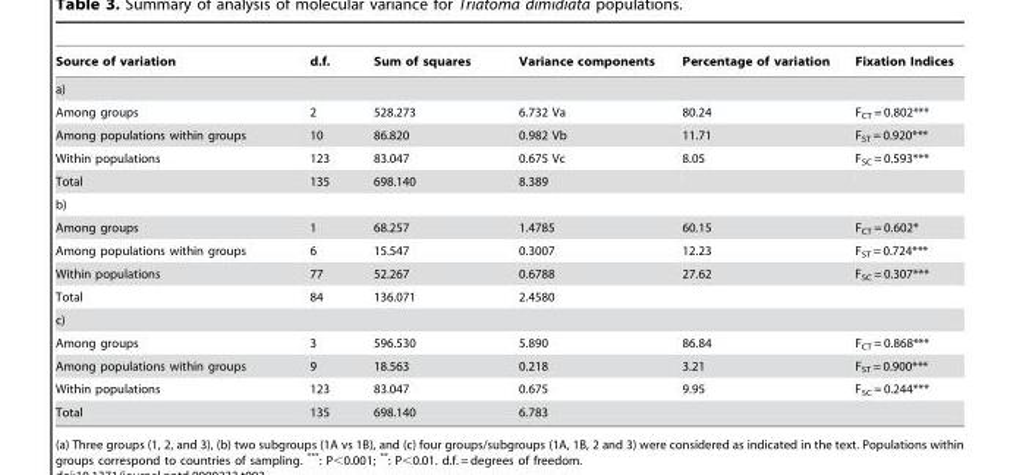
<table><thead><tr><td>Source of variation</td><td>d.f.</td><td>Sum of squares</td><td>Variance components</td><td>Percentage of variation</td><td>Fixation Indices</td></tr></thead><tbody><tr><td colspan="6">a)</td></tr><tr><td>Among groups</td><td>2</td><td>528.273</td><td>6.732 Va</td><td>80.24</td><td>F<sub>CT</sub> = 0.802***</td></tr><tr><td>Among populations within groups</td><td>10</td><td>86.820</td><td>0.982 Vb</td><td>11.71</td><td>F<sub>ST</sub> = 0.920***</td></tr><tr><td>Within populations</td><td>123</td><td>83.047</td><td>0.675 Vc</td><td>8.05</td><td>F<sub>SC</sub> = 0.593***</td></tr><tr><td>Total</td><td>135</td><td>698.140</td><td>8.389</td><td></td><td></td></tr><tr><td colspan="6">b)</td></tr><tr><td>Among groups</td><td>1</td><td>68.257</td><td>1.4785</td><td>60.15</td><td>F<sub>CT</sub> = 0.602*</td></tr><tr><td>Among populations within groups</td><td>6</td><td>15.547</td><td>0.3007</td><td>12.23</td><td>F<sub>ST</sub> = 0.724***</td></tr><tr><td>Within populations</td><td>77</td><td>52.267</td><td>0.6788</td><td>27.62</td><td>F<sub>SC</sub> = 0.307***</td></tr><tr><td>Total</td><td>84</td><td>136.071</td><td>2.4580</td><td></td><td></td></tr><tr><td colspan="6">c)</td></tr><tr><td>Among groups</td><td>3</td><td>596.530</td><td>5.890</td><td>86.84</td><td>F<sub>CT</sub> = 0.868***</td></tr><tr><td>Among populations within groups</td><td>9</td><td>18.563</td><td>0.218</td><td>3.21</td><td>F<sub>ST</sub> = 0.900***</td></tr><tr><td>Within populations</td><td>123</td><td>83.047</td><td>0.675</td><td>9.95</td><td>F<sub>SC</sub> = 0.244***</td></tr><tr><td>Total</td><td>135</td><td>698.140</td><td>6.783</td><td></td><td></td></tr></tbody></table>